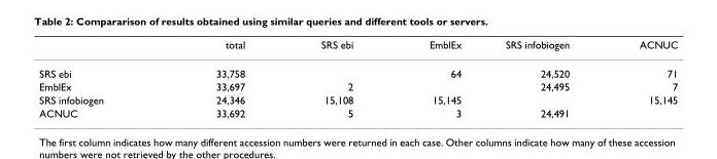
<table><thead><tr><td></td><td>total</td><td>SRS ebi</td><td>EmblEx</td><td>SRS infobiogen</td><td>ACNUC</td></tr></thead><tbody><tr><td>SRS ebi</td><td>33,758</td><td></td><td>64</td><td>24,520</td><td>71</td></tr><tr><td>EmblEx</td><td>33,697</td><td>2</td><td></td><td>24,495</td><td>7</td></tr><tr><td>SRS infobiogen</td><td>24,346</td><td>15,108</td><td>15,145</td><td></td><td>15,145</td></tr><tr><td>ACNUC</td><td>33,692</td><td>5</td><td>3</td><td>24,491</td><td></td></tr></tbody></table>